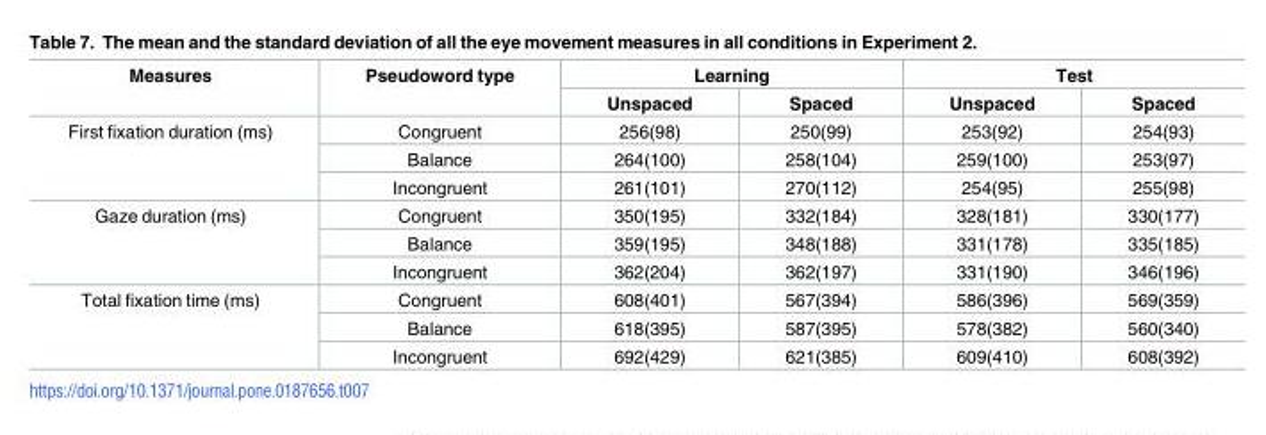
<table><thead><tr><td rowspan="2">Measures</td><td rowspan="2">Pseudoword type</td><td colspan="2">Learning</td><td colspan="2">Test</td></tr><tr><td>Unspaced</td><td>Spaced</td><td>Unspaced</td><td>Spaced</td></tr></thead><tbody><tr><td rowspan="3">First fixation duration (ms)</td><td>Congruent</td><td>256(98)</td><td>250(99)</td><td>253(92)</td><td>254(93)</td></tr><tr><td>Balance</td><td>264(100)</td><td>258(104)</td><td>259(100)</td><td>253(97)</td></tr><tr><td>Incongruent</td><td>261(101)</td><td>270(112)</td><td>254(95)</td><td>255(98)</td></tr><tr><td rowspan="3">Gaze duration (ms)</td><td>Congruent</td><td>350(195)</td><td>332(184)</td><td>328(181)</td><td>330(177)</td></tr><tr><td>Balance</td><td>359(195)</td><td>348(188)</td><td>331(178)</td><td>335(185)</td></tr><tr><td>Incongruent</td><td>362(204)</td><td>362(197)</td><td>331(190)</td><td>346(196)</td></tr><tr><td rowspan="3">Total fixation time (ms)</td><td>Congruent</td><td>608(401)</td><td>567(394)</td><td>586(396)</td><td>569(359)</td></tr><tr><td>Balance</td><td>618(395)</td><td>587(395)</td><td>578(382)</td><td>560(340)</td></tr><tr><td>Incongruent</td><td>692(429)</td><td>621(385)</td><td>609(410)</td><td>608(392)</td></tr></tbody></table>